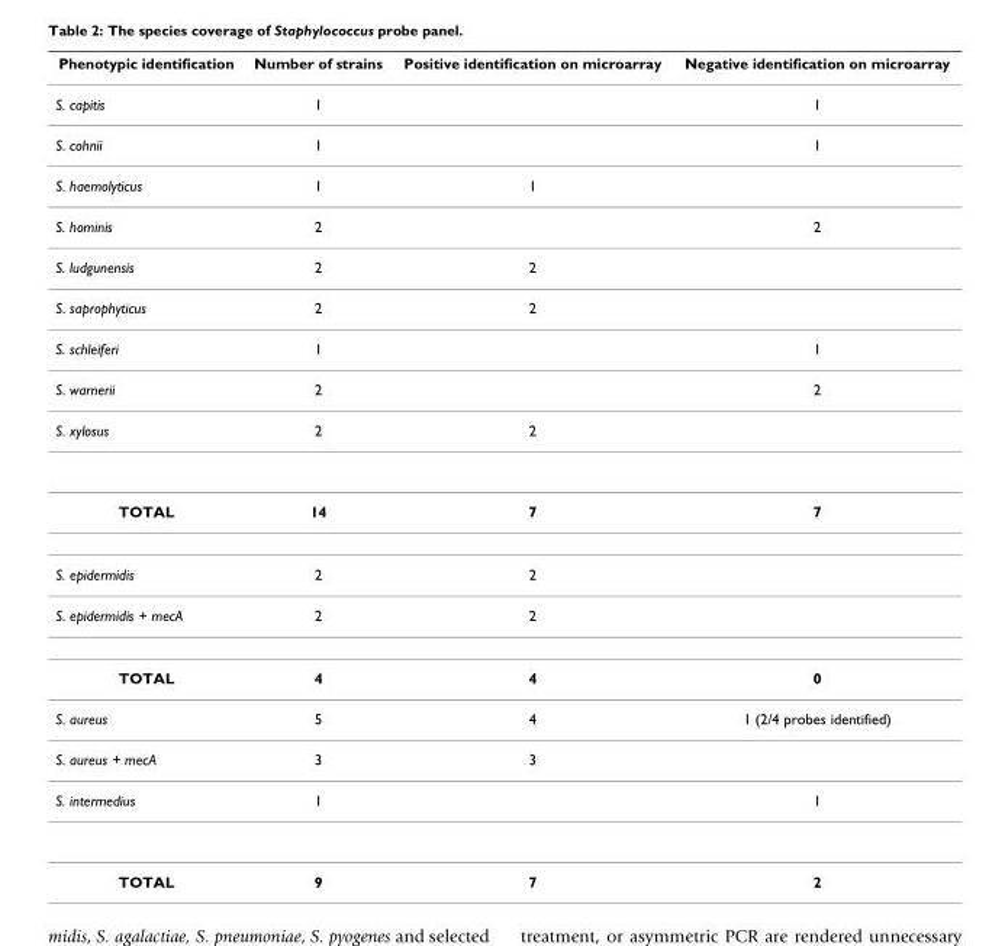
<table><thead><tr><td>Phenotypic identification</td><td>Number of strains</td><td>Positive identification on microarray</td><td>Negative identification on microarray</td></tr></thead><tbody><tr><td>S. capitis</td><td>1</td><td></td><td>1</td></tr><tr><td>S. cohnii</td><td>1</td><td></td><td>1</td></tr><tr><td>S. haemolyticus</td><td>1</td><td>1</td><td></td></tr><tr><td>S. hominis</td><td>2</td><td></td><td>2</td></tr><tr><td>S. ludgunensis</td><td>2</td><td>2</td><td></td></tr><tr><td>S. saprophyticus</td><td>2</td><td>2</td><td></td></tr><tr><td>S. schleiferi</td><td>1</td><td></td><td>1</td></tr><tr><td>S. warnerii</td><td>2</td><td></td><td>2</td></tr><tr><td>S. xylosus</td><td>2</td><td>2</td><td></td></tr><tr><td>TOTAL</td><td>14</td><td>7</td><td>7</td></tr><tr><td>S. epidermidis</td><td>2</td><td>2</td><td></td></tr><tr><td>S. epidermidis + mecA</td><td>2</td><td>2</td><td></td></tr><tr><td>TOTAL</td><td>4</td><td>4</td><td>0</td></tr><tr><td>S. aureus</td><td>5</td><td>4</td><td>1 (2/4 probes identified)</td></tr><tr><td>S. aureus + mecA</td><td>3</td><td>3</td><td></td></tr><tr><td>S. intermedius</td><td>1</td><td></td><td>1</td></tr><tr><td>TOTAL</td><td>9</td><td>7</td><td>2</td></tr></tbody></table>